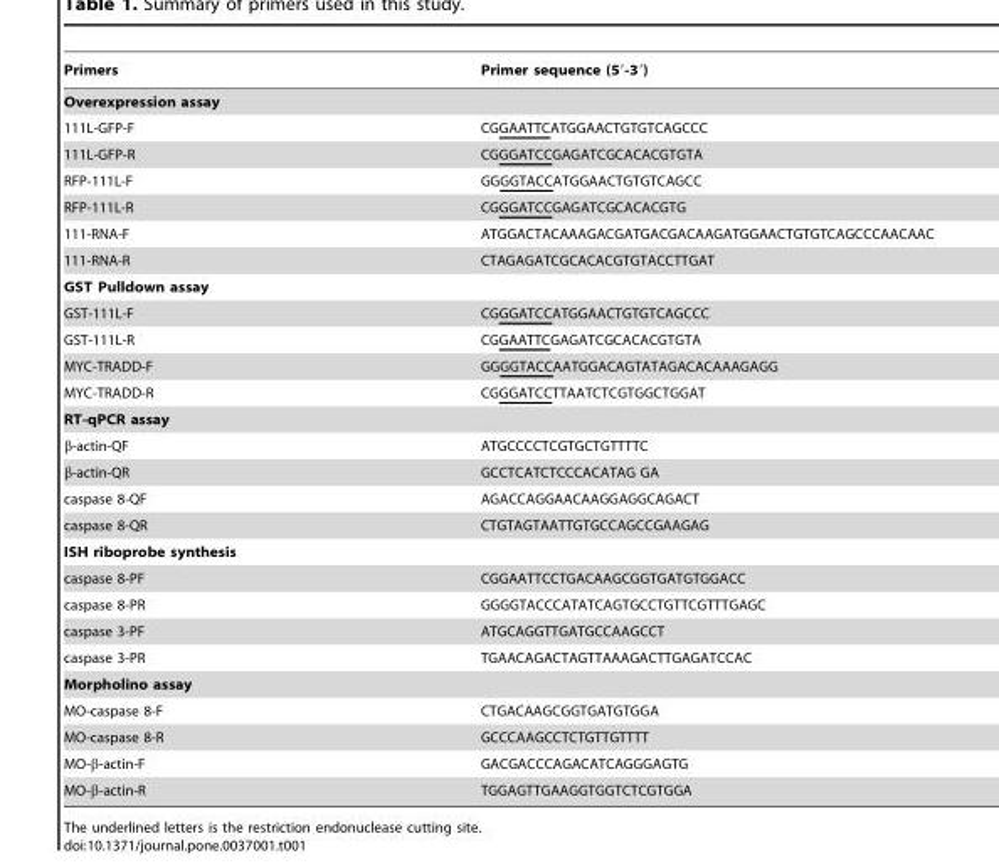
<table><thead><tr><td>Primers</td><td>Primer sequence (5′-3′)</td></tr></thead><tbody><tr><td colspan="2">Overexpression assay</td></tr><tr><td>111L-GFP-F</td><td>CGGAATTCATGGAACTGTGTCAGCCC</td></tr><tr><td>111L-GFP-R</td><td>CGGGATCCGAGATCGCACACGTGTA</td></tr><tr><td>RFP-111L-F</td><td>GGGGTACCATGGAACTGTGTCAGCC</td></tr><tr><td>RFP-111L-R</td><td>CGGGATCCGAGATCGCACACGTG</td></tr><tr><td>111-RNA-F</td><td>ATGGACTACAAAGACGATGACGACAAGATGGAACTGTGTCAGCCCAACAAC</td></tr><tr><td>111-RNA-R</td><td>CTAGAGATCGCACACGTGTACCTTGAT</td></tr><tr><td colspan="2">GST Pulldown assay</td></tr><tr><td>GST-111L-F</td><td>CGGGATCCATGGAACTGTGTCAGCCC</td></tr><tr><td>GST-111L-R</td><td>CGGAATTCGAGATCGCACACGTGTA</td></tr><tr><td>MYC-TRADD-F</td><td>GGGGTACCAATGGACAGTATAGACACAAAGAGG</td></tr><tr><td>MYC-TRADD-R</td><td>CGGGATCCTTAATCTCGTGGCTGGAT</td></tr><tr><td colspan="2">RT-qPCR assay</td></tr><tr><td>β-actin-QF</td><td>ATGCCCCTCGTGCTGTTTTC</td></tr><tr><td>β-actin-QR</td><td>GCCTCATCTCCCACATAG GA</td></tr><tr><td>caspase 8-QF</td><td>AGACCAGGAACAAGGAGGCAGACT</td></tr><tr><td>caspase 8-QR</td><td>CTGTAGTAATTGTGCCAGCCGAAGAG</td></tr><tr><td colspan="2">ISH riboprobe synthesis</td></tr><tr><td>caspase 8-PF</td><td>CGGAATTCCTGACAAGCGGTGATGTGGACC</td></tr><tr><td>caspase 8-PR</td><td>GGGGTACCCATATCAGTGCCTGTTCGTTTGAGC</td></tr><tr><td>caspase 3-PF</td><td>ATGCAGGTTGATGCCAAGCCT</td></tr><tr><td>caspase 3-PR</td><td>TGAACAGACTAGTTAAAGACTTGAGATCCAC</td></tr><tr><td colspan="2">Morpholino assay</td></tr><tr><td>MO-caspase 8-F</td><td>CTGACAAGCGGTGATGTGGA</td></tr><tr><td>MO-caspase 8-R</td><td>GCCCAAGCCTCTGTTGTTTT</td></tr><tr><td>MO-β-actin-F</td><td>GACGACCCAGACATCAGGGAGTG</td></tr><tr><td>MO-β-actin-R</td><td>TGGAGTTGAAGGTGGTCTCGTGGA</td></tr></tbody></table>